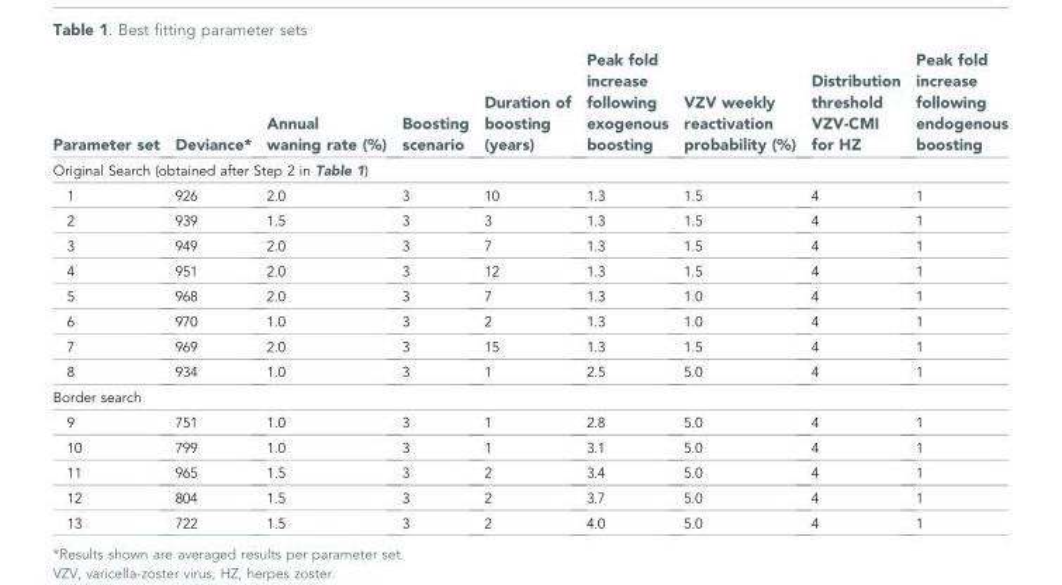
<table><thead><tr><td>Parameter set</td><td>Deviance*</td><td>Annual waning rate (%)</td><td>Boosting scenario</td><td>Duration of boosting (years)</td><td>Peak fold increase following exogenous boosting</td><td>VZV weekly reactivation probability (%)</td><td>Distribution threshold VZV-CMI for HZ</td><td>Peak fold increase following endogenous boosting</td></tr></thead><tbody><tr><td colspan="9">Original Search (obtained after Step 2 in Table 1)</td></tr><tr><td>1</td><td>926</td><td>2.0</td><td>3</td><td>10</td><td>1.3</td><td>1.5</td><td>4</td><td>1</td></tr><tr><td>2</td><td>939</td><td>1.5</td><td>3</td><td>3</td><td>1.3</td><td>1.5</td><td>4</td><td>1</td></tr><tr><td>3</td><td>949</td><td>2.0</td><td>3</td><td>7</td><td>1.3</td><td>1.5</td><td>4</td><td>1</td></tr><tr><td>4</td><td>951</td><td>2.0</td><td>3</td><td>12</td><td>1.3</td><td>1.5</td><td>4</td><td>1</td></tr><tr><td>5</td><td>968</td><td>2.0</td><td>3</td><td>7</td><td>1.3</td><td>1.0</td><td>4</td><td>1</td></tr><tr><td>6</td><td>970</td><td>1.0</td><td>3</td><td>2</td><td>1.3</td><td>1.0</td><td>4</td><td>1</td></tr><tr><td>7</td><td>969</td><td>2.0</td><td>3</td><td>15</td><td>1.3</td><td>1.5</td><td>4</td><td>1</td></tr><tr><td>8</td><td>934</td><td>1.0</td><td>3</td><td>1</td><td>2.5</td><td>5.0</td><td>4</td><td>1</td></tr><tr><td colspan="9">Border search</td></tr><tr><td>9</td><td>751</td><td>1.0</td><td>3</td><td>1</td><td>2.8</td><td>5.0</td><td>4</td><td>1</td></tr><tr><td>10</td><td>799</td><td>1.0</td><td>3</td><td>1</td><td>3.1</td><td>5.0</td><td>4</td><td>1</td></tr><tr><td>11</td><td>965</td><td>1.5</td><td>3</td><td>2</td><td>3.4</td><td>5.0</td><td>4</td><td>1</td></tr><tr><td>12</td><td>804</td><td>1.5</td><td>3</td><td>2</td><td>3.7</td><td>5.0</td><td>4</td><td>1</td></tr><tr><td>13</td><td>722</td><td>1.5</td><td>3</td><td>2</td><td>4.0</td><td>5.0</td><td>4</td><td>1</td></tr></tbody></table>